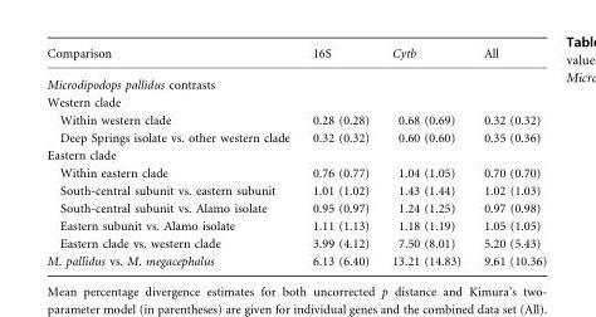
<table><thead><tr><td>Comparison</td><td>16S</td><td>Cytb</td><td>All</td></tr></thead><tbody><tr><td colspan="4">Microdipodops pallidus contrasts</td></tr><tr><td colspan="4">Western clade</td></tr><tr><td>Within western clade</td><td>0.28 (0.28)</td><td>0.68 (0.69)</td><td>0.32 (0.32)</td></tr><tr><td>Deep Springs isolate vs. other western clade</td><td>0.32 (0.32)</td><td>0.60 (0.60)</td><td>0.35 (0.36)</td></tr><tr><td colspan="4">Eastern clade</td></tr><tr><td>Within eastern clade</td><td>0.76 (0.77)</td><td>1.04 (1.05)</td><td>0.70 (0.70)</td></tr><tr><td>South-central subunit vs. eastern subunit</td><td>1.01 (1.02)</td><td>1.43 (1.44)</td><td>1.02 (1.03)</td></tr><tr><td>South-central subunit vs. Alamo isolate</td><td>0.95 (0.97)</td><td>1.24 (1.25)</td><td>0.97 (0.98)</td></tr><tr><td>Eastern subunit vs. Alamo isolate</td><td>1.11 (1.13)</td><td>1.18 (1.19)</td><td>1.05 (1.05)</td></tr><tr><td>Eastern clade vs. western clade</td><td>3.99 (4.12)</td><td>7.50 (8.01)</td><td>5.20 (5.43)</td></tr><tr><td>M. pallidus vs. M. megacephalus</td><td>6.13 (6.40)</td><td>13.21 (14.83)</td><td>9.61 (10.36)</td></tr></tbody></table>